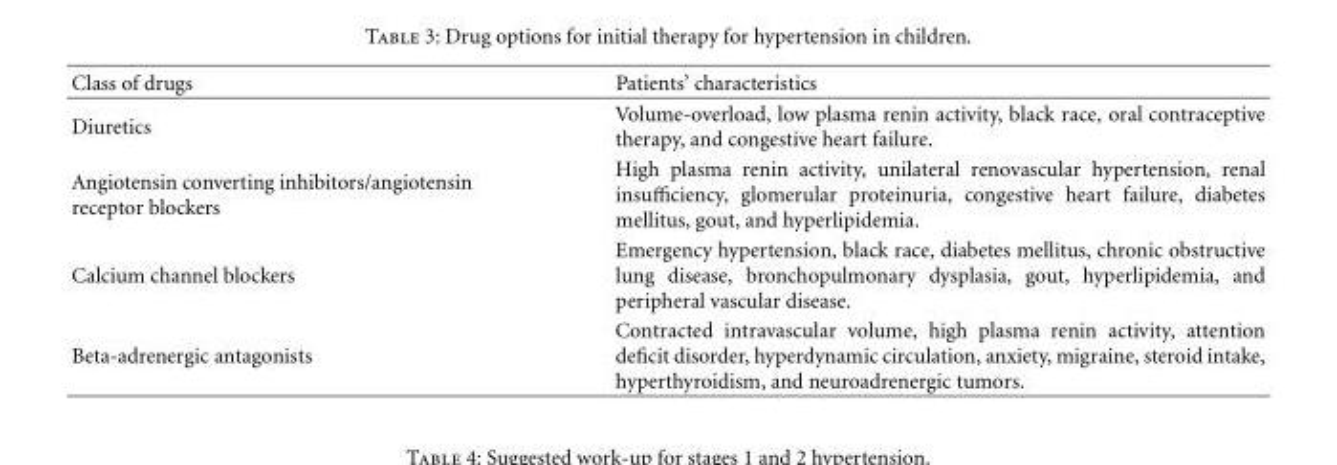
<table><thead><tr><td>Class of drugs</td><td>Patients’ characteristics</td></tr></thead><tbody><tr><td>Diuretics</td><td>Volume-overload, low plasma renin activity, black race, oral contraceptive therapy, and congestive heart failure.</td></tr><tr><td>Angiotensin converting inhibitors/angiotensin receptor blockers</td><td>High plasma renin activity, unilateral renovascular hypertension, renal insufficiency, glomerular proteinuria, congestive heart failure, diabetes mellitus, gout, and hyperlipidemia.</td></tr><tr><td>Calcium channel blockers</td><td>Emergency hypertension, black race, diabetes mellitus, chronic obstructive lung disease, bronchopulmonary dysplasia, gout, hyperlipidemia, and peripheral vascular disease.</td></tr><tr><td>Beta-adrenergic antagonists</td><td>Contracted intravascular volume, high plasma renin activity, attention deficit disorder, hyperdynamic circulation, anxiety, migraine, steroid intake, hyperthyroidism, and neuroadrenergic tumors.</td></tr></tbody></table>